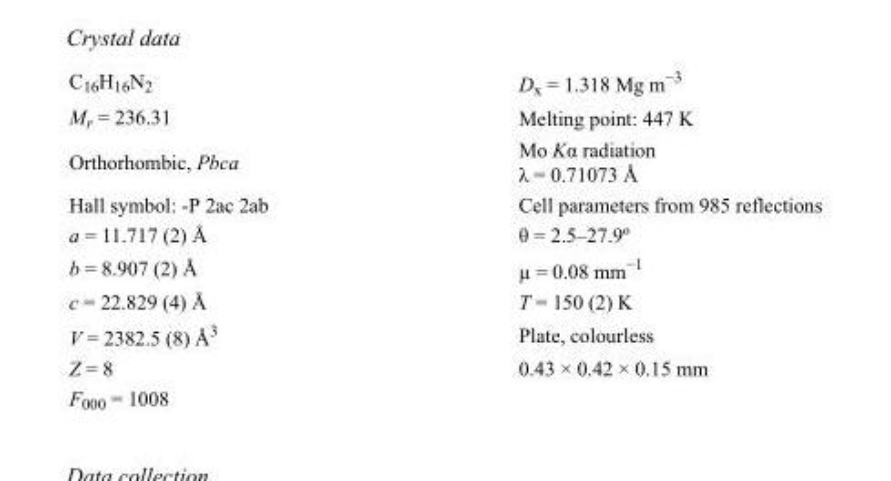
<table><tbody><tr><td>C<sub>16</sub>H<sub>16</sub>N<sub>2</sub></td><td>D<sub>x</sub> = 1.318 Mg m<sup>−3</sup></td></tr><tr><td>M<sub>r</sub> = 236.31</td><td>Melting point: 447 K</td></tr><tr><td>Orthorhombic, Pbca</td><td>Mo Kα radiation λ = 0.71073 Å</td></tr><tr><td>Hall symbol: -P 2ac 2ab</td><td>Cell parameters from 985 reflections</td></tr><tr><td>a = 11.717 (2) Å</td><td>θ = 2.5–27.9º</td></tr><tr><td>b = 8.907 (2) Å</td><td>µ = 0.08 mm<sup>−1</sup></td></tr><tr><td>c = 22.829 (4) Å</td><td>T = 150 (2) K</td></tr><tr><td>V = 2382.5 (8) Å<sup>3</sup></td><td>Plate, colourless</td></tr><tr><td>Z = 8</td><td>0.43 × 0.42 × 0.15 mm</td></tr><tr><td>F<sub>000</sub> = 1008</td><td></td></tr></tbody></table>